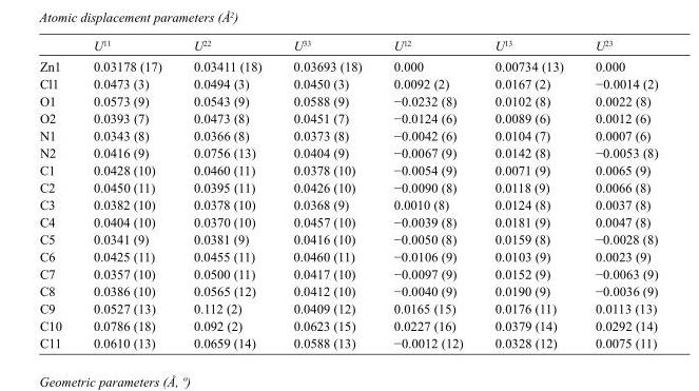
<table><thead><tr><td></td><td>U<sup>11</sup></td><td>U<sup>22</sup></td><td>U<sup>33</sup></td><td>U<sup>12</sup></td><td>U<sup>13</sup></td><td>U<sup>23</sup></td></tr></thead><tbody><tr><td>Zn1</td><td>0.03178 (17)</td><td>0.03411 (18)</td><td>0.03693 (18)</td><td>0.000</td><td>0.00734 (13)</td><td>0.000</td></tr><tr><td>Cl1</td><td>0.0473 (3)</td><td>0.0494 (3)</td><td>0.0450 (3)</td><td>0.0092 (2)</td><td>0.0167 (2)</td><td>−0.0014 (2)</td></tr><tr><td>O1</td><td>0.0573 (9)</td><td>0.0543 (9)</td><td>0.0588 (9)</td><td>−0.0232 (8)</td><td>0.0102 (8)</td><td>0.0022 (8)</td></tr><tr><td>O2</td><td>0.0393 (7)</td><td>0.0473 (8)</td><td>0.0451 (7)</td><td>−0.0124 (6)</td><td>0.0089 (6)</td><td>0.0012 (6)</td></tr><tr><td>N1</td><td>0.0343 (8)</td><td>0.0366 (8)</td><td>0.0373 (8)</td><td>−0.0042 (6)</td><td>0.0104 (7)</td><td>0.0007 (6)</td></tr><tr><td>N2</td><td>0.0416 (9)</td><td>0.0756 (13)</td><td>0.0404 (9)</td><td>−0.0067 (9)</td><td>0.0142 (8)</td><td>−0.0053 (8)</td></tr><tr><td>C1</td><td>0.0428 (10)</td><td>0.0460 (11)</td><td>0.0378 (10)</td><td>−0.0054 (9)</td><td>0.0071 (9)</td><td>0.0065 (9)</td></tr><tr><td>C2</td><td>0.0450 (11)</td><td>0.0395 (11)</td><td>0.0426 (10)</td><td>−0.0090 (8)</td><td>0.0118 (9)</td><td>0.0066 (8)</td></tr><tr><td>C3</td><td>0.0382 (10)</td><td>0.0378 (10)</td><td>0.0368 (9)</td><td>0.0010 (8)</td><td>0.0124 (8)</td><td>0.0037 (8)</td></tr><tr><td>C4</td><td>0.0404 (10)</td><td>0.0370 (10)</td><td>0.0457 (10)</td><td>−0.0039 (8)</td><td>0.0181 (9)</td><td>0.0047 (8)</td></tr><tr><td>C5</td><td>0.0341 (9)</td><td>0.0381 (9)</td><td>0.0416 (10)</td><td>−0.0050 (8)</td><td>0.0159 (8)</td><td>−0.0028 (8)</td></tr><tr><td>C6</td><td>0.0425 (11)</td><td>0.0455 (11)</td><td>0.0460 (11)</td><td>−0.0106 (9)</td><td>0.0103 (9)</td><td>0.0023 (9)</td></tr><tr><td>C7</td><td>0.0357 (10)</td><td>0.0500 (11)</td><td>0.0417 (10)</td><td>−0.0097 (9)</td><td>0.0152 (9)</td><td>−0.0063 (9)</td></tr><tr><td>C8</td><td>0.0386 (10)</td><td>0.0565 (12)</td><td>0.0412 (10)</td><td>−0.0040 (9)</td><td>0.0190 (9)</td><td>−0.0036 (9)</td></tr><tr><td>C9</td><td>0.0527 (13)</td><td>0.112 (2)</td><td>0.0409 (12)</td><td>0.0165 (15)</td><td>0.0176 (11)</td><td>0.0113 (13)</td></tr><tr><td>C10</td><td>0.0786 (18)</td><td>0.092 (2)</td><td>0.0623 (15)</td><td>0.0227 (16)</td><td>0.0379 (14)</td><td>0.0292 (14)</td></tr><tr><td>C11</td><td>0.0610 (13)</td><td>0.0659 (14)</td><td>0.0588 (13)</td><td>−0.0012 (12)</td><td>0.0328 (12)</td><td>0.0075 (11)</td></tr></tbody></table>